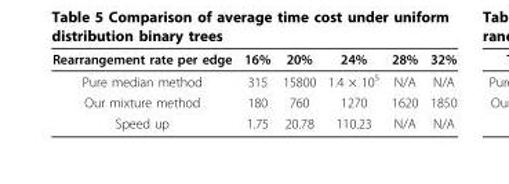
<table><thead><tr><td>Rearrangement rate per edge</td><td>16%</td><td>20%</td><td>24%</td><td>28%</td><td>32%</td></tr></thead><tbody><tr><td>Pure median method</td><td>315</td><td>15800</td><td>1.4 × 10<sup>5</sup></td><td>N/A</td><td>N/A</td></tr><tr><td>Our mixture method</td><td>180</td><td>760</td><td>1270</td><td>1620</td><td>1850</td></tr><tr><td>Speed up</td><td>1.75</td><td>20.78</td><td>110.23</td><td>N/A</td><td>N/A</td></tr></tbody></table>